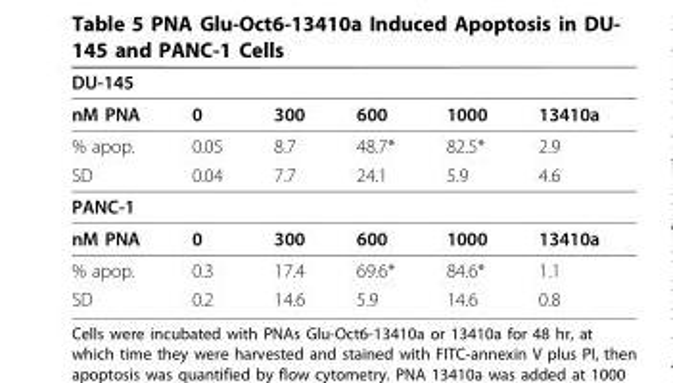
<table><thead><tr><td colspan="6">DU-145</td></tr><tr><td>nM PNA</td><td>0</td><td>300</td><td>600</td><td>1000</td><td>13410a</td></tr></thead><tbody><tr><td>% apop.</td><td>0.05</td><td>8.7</td><td>48.7*</td><td>82.5*</td><td>2.9</td></tr><tr><td>SD</td><td>0.04</td><td>7.7</td><td>24.1</td><td>5.9</td><td>4.6</td></tr><tr><td colspan="6">PANC-1</td></tr><tr><td>nM PNA</td><td>0</td><td>300</td><td>600</td><td>1000</td><td>13410a</td></tr><tr><td>% apop.</td><td>0.3</td><td>17.4</td><td>69.6*</td><td>84.6*</td><td>1.1</td></tr><tr><td>SD</td><td>0.2</td><td>14.6</td><td>5.9</td><td>14.6</td><td>0.8</td></tr></tbody></table>